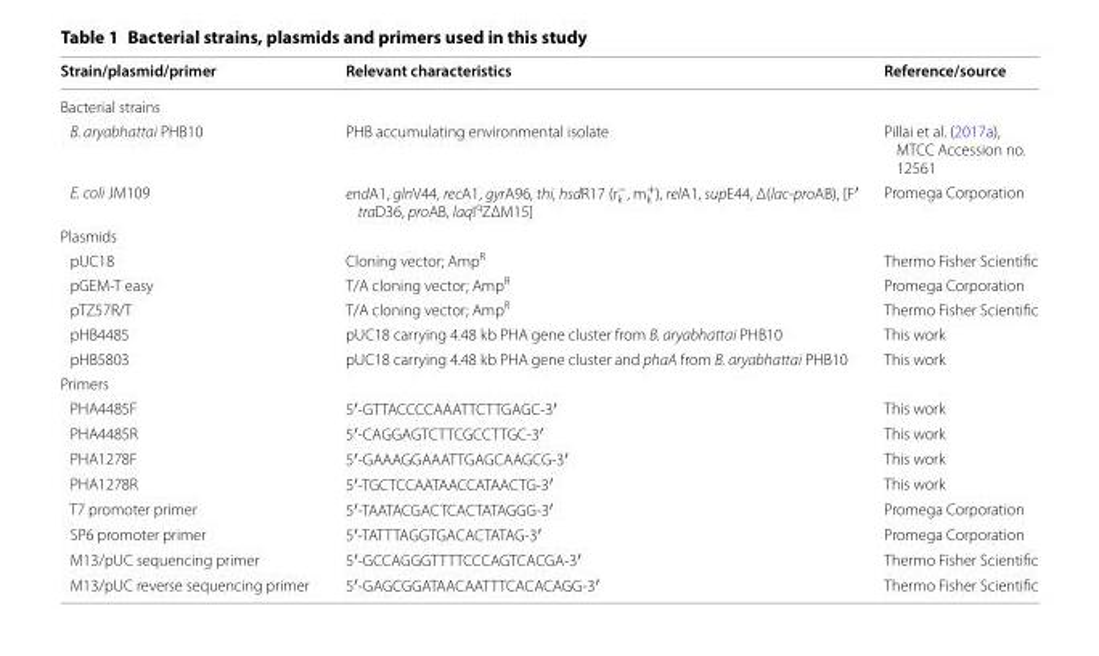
<table><thead><tr><td>Strain/plasmid/primer</td><td>Relevant characteristics</td><td>Reference/source</td></tr></thead><tbody><tr><td colspan="3">Bacterial strains</td></tr><tr><td>B. aryabhattai PHB10</td><td>PHB accumulating environmental isolate</td><td>Pillai et al. (2017a), MTCC Accession no. 12561</td></tr><tr><td>E. coli JM109</td><td>endA1, glnV44, recA1, gyrA96, thi, hsdR17 (r<sub>k</sub> <sup>−</sup>, m<sub>k</sub> <sup>+</sup>), relA1, supE44, Δ(lac-proAB), [F′ traD36, proAB, laqI<sup>q</sup>ZΔM15]</td><td>Promega Corporation</td></tr><tr><td colspan="3">Plasmids</td></tr><tr><td>pUC18</td><td>Cloning vector; Amp<sup>R</sup></td><td>Thermo Fisher Scientific</td></tr><tr><td>pGEM-T easy</td><td>T/A cloning vector; Amp<sup>R</sup></td><td>Promega Corporation</td></tr><tr><td>pTZ57R/T</td><td>T/A cloning vector; Amp<sup>R</sup></td><td>Thermo Fisher Scientific</td></tr><tr><td>pHB4485</td><td>pUC18 carrying 4.48 kb PHA gene cluster from B. aryabhattai PHB10</td><td>This work</td></tr><tr><td>pHB5803</td><td>pUC18 carrying 4.48 kb PHA gene cluster and phaA from B. aryabhattai PHB10</td><td>This work</td></tr><tr><td colspan="3">Primers</td></tr><tr><td>PHA4485F</td><td>5′-GTT ACC CCA AAT TCT TGA GC-3′</td><td>This work</td></tr><tr><td>PHA4485R</td><td>5′-CAG GAG TCT TCG CCT TGC -3′</td><td>This work</td></tr><tr><td>PHA1278F</td><td>5′-GAA AGG AAA TTG AGC AAG CG-3′</td><td>This work</td></tr><tr><td>PHA1278R</td><td>5′-TGC TCC AAT AAC CAT AAC TG-3′</td><td>This work</td></tr><tr><td>T7 promoter primer</td><td>5′-TAA TAC GAC TCA CTA TAG GG-3′</td><td>Promega Corporation</td></tr><tr><td>SP6 promoter primer</td><td>5′-TAT TTA GGT GAC ACT ATA G-3′</td><td>Promega Corporation</td></tr><tr><td>M13/pUC sequencing primer</td><td>5′-GCC AGG GTT TTC CCA GTC ACGA-3′</td><td>Thermo Fisher Scientific</td></tr><tr><td>M13/pUC reverse sequencing primer</td><td>5′-GAG CGG ATA ACA ATT TCA CAC AGG -3′</td><td>Thermo Fisher Scientific</td></tr></tbody></table>